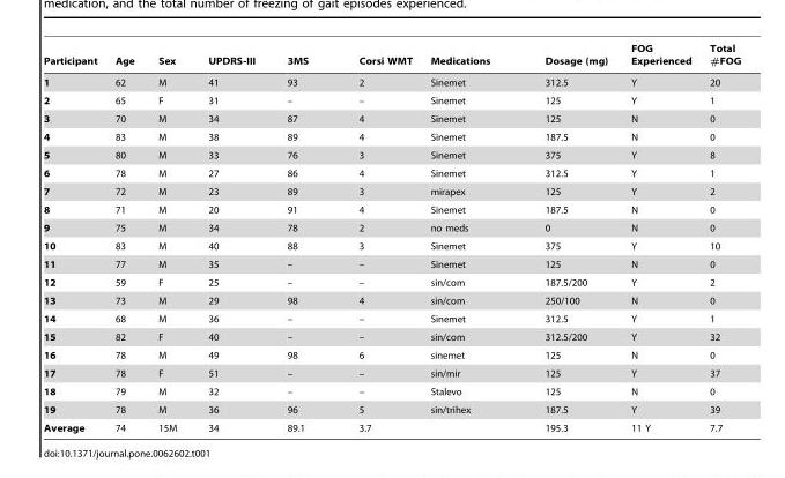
<table><thead><tr><td>Participant</td><td>Age</td><td>Sex</td><td>UPDRS-III</td><td>3MS</td><td>Corsi WMT</td><td>Medications</td><td>Dosage (mg)</td><td>FOG Experienced</td><td>Total #FOG</td></tr></thead><tbody><tr><td>1</td><td>62</td><td>M</td><td>41</td><td>93</td><td>2</td><td>Sinemet</td><td>312.5</td><td>Y</td><td>20</td></tr><tr><td>2</td><td>65</td><td>F</td><td>31</td><td>–</td><td>–</td><td>Sinemet</td><td>125</td><td>Y</td><td>1</td></tr><tr><td>3</td><td>70</td><td>M</td><td>34</td><td>87</td><td>4</td><td>Sinemet</td><td>125</td><td>N</td><td>0</td></tr><tr><td>4</td><td>83</td><td>M</td><td>38</td><td>89</td><td>4</td><td>Sinemet</td><td>187.5</td><td>N</td><td>0</td></tr><tr><td>5</td><td>80</td><td>M</td><td>33</td><td>76</td><td>3</td><td>Sinemet</td><td>375</td><td>Y</td><td>8</td></tr><tr><td>6</td><td>78</td><td>M</td><td>27</td><td>86</td><td>4</td><td>Sinemet</td><td>312.5</td><td>Y</td><td>1</td></tr><tr><td>7</td><td>72</td><td>M</td><td>23</td><td>89</td><td>3</td><td>mirapex</td><td>125</td><td>Y</td><td>2</td></tr><tr><td>8</td><td>71</td><td>M</td><td>20</td><td>91</td><td>4</td><td>Sinemet</td><td>187.5</td><td>N</td><td>0</td></tr><tr><td>9</td><td>75</td><td>M</td><td>34</td><td>78</td><td>2</td><td>no meds</td><td>0</td><td>N</td><td>0</td></tr><tr><td>10</td><td>83</td><td>M</td><td>40</td><td>88</td><td>3</td><td>Sinemet</td><td>375</td><td>Y</td><td>10</td></tr><tr><td>11</td><td>77</td><td>M</td><td>35</td><td>–</td><td>–</td><td>Sinemet</td><td>125</td><td>N</td><td>0</td></tr><tr><td>12</td><td>59</td><td>F</td><td>25</td><td>–</td><td>–</td><td>sin/com</td><td>187.5/200</td><td>Y</td><td>2</td></tr><tr><td>13</td><td>73</td><td>M</td><td>29</td><td>98</td><td>4</td><td>sin/com</td><td>250/100</td><td>N</td><td>0</td></tr><tr><td>14</td><td>68</td><td>M</td><td>36</td><td>–</td><td>–</td><td>Sinemet</td><td>312.5</td><td>Y</td><td>1</td></tr><tr><td>15</td><td>82</td><td>F</td><td>40</td><td>–</td><td>–</td><td>sin/com</td><td>312.5/200</td><td>Y</td><td>32</td></tr><tr><td>16</td><td>78</td><td>M</td><td>49</td><td>98</td><td>6</td><td>sinemet</td><td>125</td><td>N</td><td>0</td></tr><tr><td>17</td><td>78</td><td>F</td><td>51</td><td>–</td><td>–</td><td>sin/mir</td><td>125</td><td>Y</td><td>37</td></tr><tr><td>18</td><td>79</td><td>M</td><td>32</td><td>–</td><td>–</td><td>Stalevo</td><td>125</td><td>N</td><td>0</td></tr><tr><td>19</td><td>78</td><td>M</td><td>36</td><td>96</td><td>5</td><td>sin/trihex</td><td>187.5</td><td>Y</td><td>39</td></tr><tr><td>Average</td><td>74</td><td>15M</td><td>34</td><td>89.1</td><td>3.7</td><td></td><td>195.3</td><td>11 Y</td><td>7.7</td></tr></tbody></table>